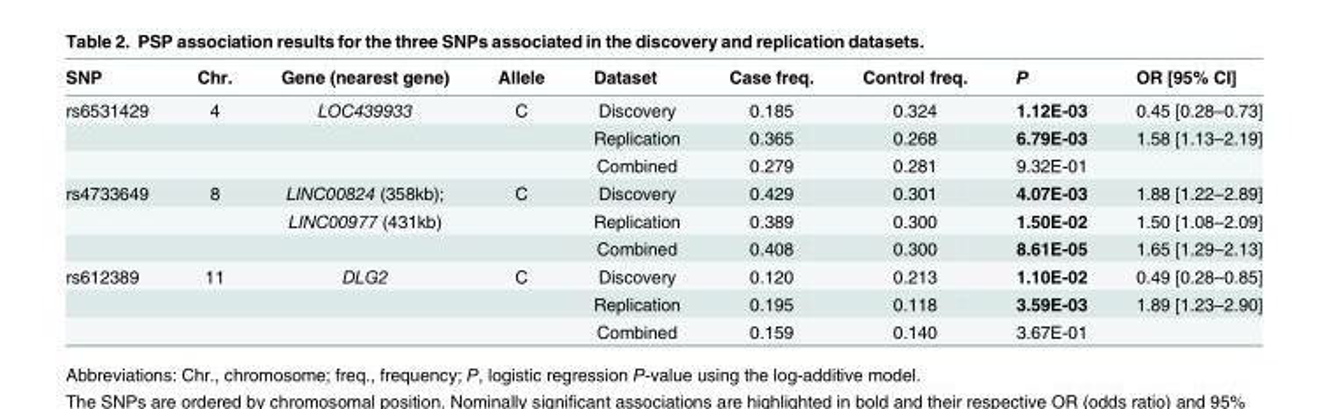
<table><thead><tr><td>SNP</td><td>Chr.</td><td>Gene (nearest gene)</td><td>Allele</td><td>Dataset</td><td>Case freq.</td><td>Control freq.</td><td>P</td><td>OR [95% CI]</td></tr></thead><tbody><tr><td rowspan="3">rs6531429</td><td>4</td><td>LOC439933</td><td>C</td><td>Discovery</td><td>0.185</td><td>0.324</td><td>1.12E-03</td><td>0.45 [0.28–0.73]</td></tr><tr><td></td><td></td><td></td><td>Replication</td><td>0.365</td><td>0.268</td><td>6.79E-03</td><td>1.58 [1.13–2.19]</td></tr><tr><td></td><td></td><td></td><td>Combined</td><td>0.279</td><td>0.281</td><td>9.32E-01</td><td></td></tr><tr><td rowspan="3">rs4733649</td><td>8</td><td>LINC00824 (358kb);</td><td>C</td><td>Discovery</td><td>0.429</td><td>0.301</td><td>4.07E-03</td><td>1.88 [1.22–2.89]</td></tr><tr><td></td><td>LINC00977 (431kb)</td><td></td><td>Replication</td><td>0.389</td><td>0.300</td><td>1.50E-02</td><td>1.50 [1.08–2.09]</td></tr><tr><td></td><td></td><td></td><td>Combined</td><td>0.408</td><td>0.300</td><td>8.61E-05</td><td>1.65 [1.29–2.13]</td></tr><tr><td rowspan="3">rs612389</td><td>11</td><td>DLG2</td><td>C</td><td>Discovery</td><td>0.120</td><td>0.213</td><td>1.10E-02</td><td>0.49 [0.28–0.85]</td></tr><tr><td></td><td></td><td></td><td>Replication</td><td>0.195</td><td>0.118</td><td>3.59E-03</td><td>1.89 [1.23–2.90]</td></tr><tr><td></td><td></td><td></td><td>Combined</td><td>0.159</td><td>0.140</td><td>3.67E-01</td><td></td></tr></tbody></table>